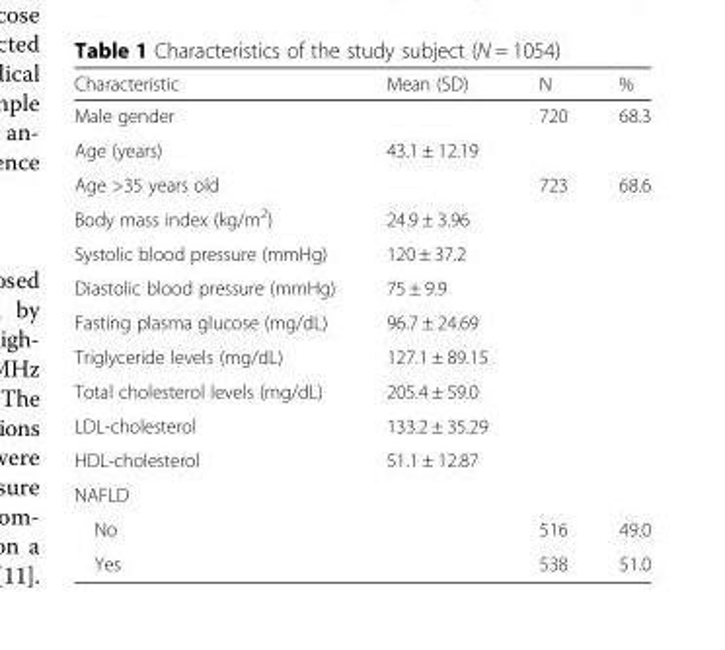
<table><thead><tr><td>Characteristic</td><td>Mean (SD)</td><td>N</td><td>%</td></tr></thead><tbody><tr><td>Male gender</td><td></td><td>720</td><td>68.3</td></tr><tr><td>Age (years)</td><td>43.1 ± 12.19</td><td></td><td></td></tr><tr><td>Age &gt;35 years old</td><td></td><td>723</td><td>68.6</td></tr><tr><td>Body mass index (kg/m<sup>2</sup>)</td><td>24.9 ± 3.96</td><td></td><td></td></tr><tr><td>Systolic blood pressure (mmHg)</td><td>120 ± 37.2</td><td></td><td></td></tr><tr><td>Diastolic blood pressure (mmHg)</td><td>75 ± 9.9</td><td></td><td></td></tr><tr><td>Fasting plasma glucose (mg/dL)</td><td>96.7 ± 24.69</td><td></td><td></td></tr><tr><td>Triglyceride levels (mg/dL)</td><td>127.1 ± 89.15</td><td></td><td></td></tr><tr><td>Total cholesterol levels (mg/dL)</td><td>205.4 ± 59.0</td><td></td><td></td></tr><tr><td>LDL-cholesterol</td><td>133.2 ± 35.29</td><td></td><td></td></tr><tr><td>HDL-cholesterol</td><td>51.1 ± 12.87</td><td></td><td></td></tr><tr><td colspan="4">NAFLD</td></tr><tr><td>No</td><td></td><td>516</td><td>49.0</td></tr><tr><td>Yes</td><td></td><td>538</td><td>51.0</td></tr></tbody></table>